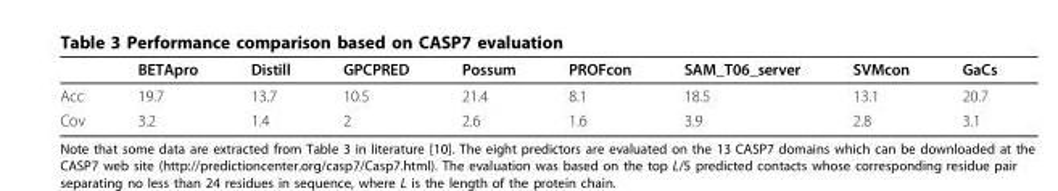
<table><thead><tr><td></td><td>BETApro</td><td>Distill</td><td>GPCPRED</td><td>Possum</td><td>PROFcon</td><td>SAM_T06_server</td><td>SVMcon</td><td>GaCs</td></tr></thead><tbody><tr><td>Acc</td><td>19.7</td><td>13.7</td><td>10.5</td><td>21.4</td><td>8.1</td><td>18.5</td><td>13.1</td><td>20.7</td></tr><tr><td>Cov</td><td>3.2</td><td>1.4</td><td>2</td><td>2.6</td><td>1.6</td><td>3.9</td><td>2.8</td><td>3.1</td></tr></tbody></table>